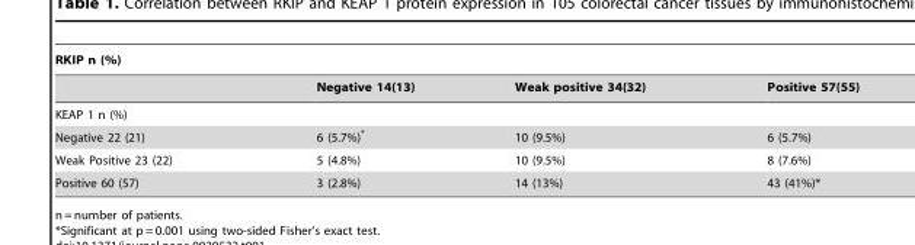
<table><thead><tr><td colspan="4">RKIP n (%)</td></tr><tr><td></td><td>Negative 14(13)</td><td>Weak positive 34(32)</td><td>Positive 57(55)</td></tr></thead><tbody><tr><td colspan="4">KEAP 1 n (%)</td></tr><tr><td>Negative 22 (21)</td><td>6 (5.7%)*</td><td>10 (9.5%)</td><td>6 (5.7%)</td></tr><tr><td>Weak Positive 23 (22)</td><td>5 (4.8%)</td><td>10 (9.5%)</td><td>8 (7.6%)</td></tr><tr><td>Positive 60 (57)</td><td>3 (2.8%)</td><td>14 (13%)</td><td>43 (41%)*</td></tr></tbody></table>